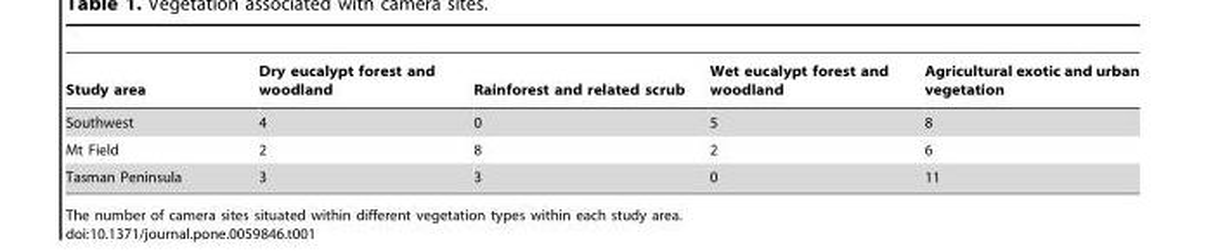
<table><thead><tr><td>Study area</td><td>Dry eucalypt forest and woodland</td><td>Rainforest and related scrub</td><td>Wet eucalypt forest and woodland</td><td>Agricultural exotic and urban vegetation</td></tr></thead><tbody><tr><td>Southwest</td><td>4</td><td>0</td><td>5</td><td>8</td></tr><tr><td>Mt Field</td><td>2</td><td>8</td><td>2</td><td>6</td></tr><tr><td>Tasman Peninsula</td><td>3</td><td>3</td><td>0</td><td>11</td></tr></tbody></table>